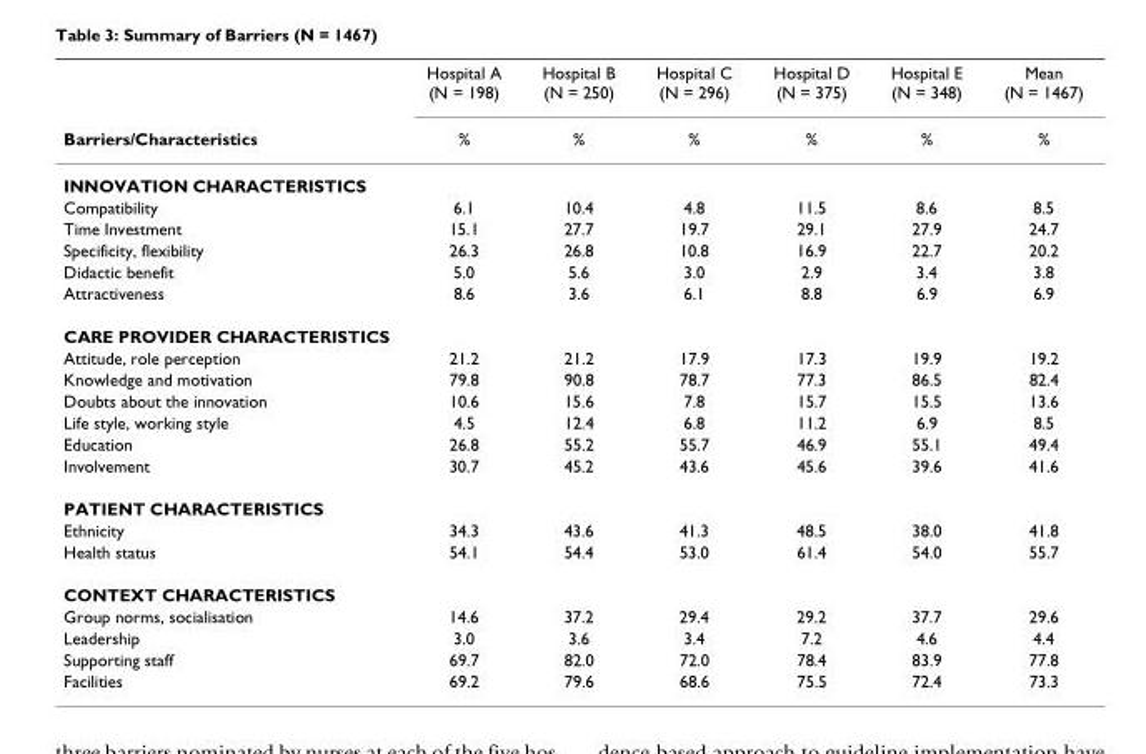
<table><thead><tr><td rowspan="2">Barriers/Characteristics</td><td rowspan="2">Hospital A (N = 198) %</td><td rowspan="2">Hospital B (N = 250) %</td><td rowspan="2">Hospital C (N = 296) %</td><td rowspan="2">Hospital D (N = 375) %</td><td rowspan="2">Hospital E (N = 348) %</td><td rowspan="2">Mean (N = 1467) %</td></tr><tr></tr></thead><tbody><tr><td colspan="7">INNOVATION CHARACTERISTICS</td></tr><tr><td>Compatibility</td><td>6.1</td><td>10.4</td><td>4.8</td><td>11.5</td><td>8.6</td><td>8.5</td></tr><tr><td>Time Investment</td><td>15.1</td><td>27.7</td><td>19.7</td><td>29.1</td><td>27.9</td><td>24.7</td></tr><tr><td>Specificity, flexibility</td><td>26.3</td><td>26.8</td><td>10.8</td><td>16.9</td><td>22.7</td><td>20.2</td></tr><tr><td>Didactic benefit</td><td>5.0</td><td>5.6</td><td>3.0</td><td>2.9</td><td>3.4</td><td>3.8</td></tr><tr><td>Attractiveness</td><td>8.6</td><td>3.6</td><td>6.1</td><td>8.8</td><td>6.9</td><td>6.9</td></tr><tr><td colspan="7">CARE PROVIDER CHARACTERISTICS</td></tr><tr><td>Attitude, role perception</td><td>21.2</td><td>21.2</td><td>17.9</td><td>17.3</td><td>19.9</td><td>19.2</td></tr><tr><td>Knowledge and motivation</td><td>79.8</td><td>90.8</td><td>78.7</td><td>77.3</td><td>86.5</td><td>82.4</td></tr><tr><td>Doubts about the innovation</td><td>10.6</td><td>15.6</td><td>7.8</td><td>15.7</td><td>15.5</td><td>13.6</td></tr><tr><td>Life style, working style</td><td>4.5</td><td>12.4</td><td>6.8</td><td>11.2</td><td>6.9</td><td>8.5</td></tr><tr><td>Education</td><td>26.8</td><td>55.2</td><td>55.7</td><td>46.9</td><td>55.1</td><td>49.4</td></tr><tr><td>Involvement</td><td>30.7</td><td>45.2</td><td>43.6</td><td>45.6</td><td>39.6</td><td>41.6</td></tr><tr><td colspan="7">PATIENT CHARACTERISTICS</td></tr><tr><td>Ethnicity</td><td>34.3</td><td>43.6</td><td>41.3</td><td>48.5</td><td>38.0</td><td>41.8</td></tr><tr><td>Health status</td><td>54.1</td><td>54.4</td><td>53.0</td><td>61.4</td><td>54.0</td><td>55.7</td></tr><tr><td colspan="7">CONTEXT CHARACTERISTICS</td></tr><tr><td>Group norms, socialisation</td><td>14.6</td><td>37.2</td><td>29.4</td><td>29.2</td><td>37.7</td><td>29.6</td></tr><tr><td>Leadership</td><td>3.0</td><td>3.6</td><td>3.4</td><td>7.2</td><td>4.6</td><td>4.4</td></tr><tr><td>Supporting staff</td><td>69.7</td><td>82.0</td><td>72.0</td><td>78.4</td><td>83.9</td><td>77.8</td></tr><tr><td>Facilities</td><td>69.2</td><td>79.6</td><td>68.6</td><td>75.5</td><td>72.4</td><td>73.3</td></tr></tbody></table>